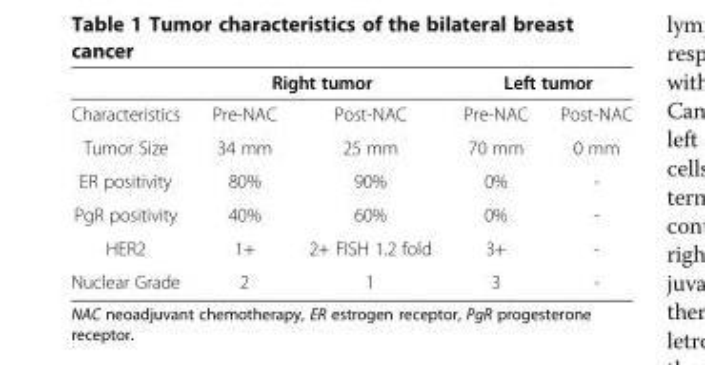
<table><thead><tr><td rowspan="2">Characteristics</td><td colspan="2">Right tumor</td><td colspan="2">Left tumor</td></tr><tr><td>Pre-NAC</td><td>Post-NAC</td><td>Pre-NAC</td><td>Post-NAC</td></tr></thead><tbody><tr><td>Tumor Size</td><td>34 mm</td><td>25 mm</td><td>70 mm</td><td>0 mm</td></tr><tr><td>ER positivity</td><td>80%</td><td>90%</td><td>0%</td><td>-</td></tr><tr><td>PgR positivity</td><td>40%</td><td>60%</td><td>0%</td><td>-</td></tr><tr><td>HER2</td><td>1+</td><td>2+ FISH 1.2 fold</td><td>3+</td><td>-</td></tr><tr><td>Nuclear Grade</td><td>2</td><td>1</td><td>3</td><td>-</td></tr></tbody></table>